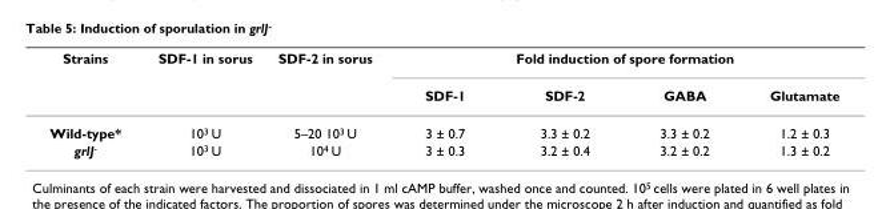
<table><thead><tr><td rowspan="2">Strains</td><td rowspan="2">SDF-1 in sorus</td><td rowspan="2">SDF-2 in sorus</td><td colspan="4">Fold induction of spore formation</td></tr><tr><td>SDF-1</td><td>SDF-2</td><td>GABA</td><td>Glutamate</td></tr></thead><tbody><tr><td>Wild-type*</td><td>10<sup>3</sup> U</td><td>5–20 10<sup>3</sup> U</td><td>3 ± 0.7</td><td>3.3 ± 0.2</td><td>3.3 ± 0.2</td><td>1.2 ± 0.3</td></tr><tr><td>grlJ<sup>-</sup></td><td>10<sup>3</sup> U</td><td>10<sup>4</sup> U</td><td>3 ± 0.3</td><td>3.2 ± 0.4</td><td>3.2 ± 0.2</td><td>1.3 ± 0.2</td></tr></tbody></table>